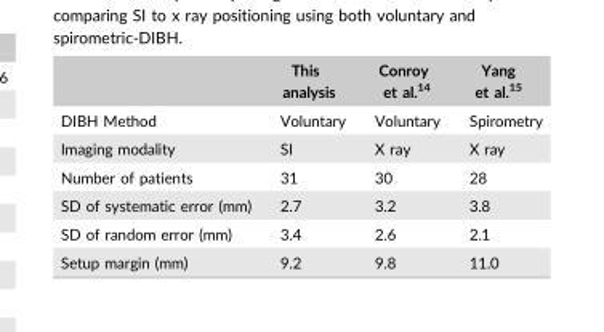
<table><thead><tr><td></td><td>This analysis</td><td>Conroy et al.<sup>14</sup></td><td>Yang et al.<sup>15</sup></td></tr></thead><tbody><tr><td>DIBH Method</td><td>Voluntary</td><td>Voluntary</td><td>Spirometry</td></tr><tr><td>Imaging modality</td><td>SI</td><td>X ray</td><td>X ray</td></tr><tr><td>Number of patients</td><td>31</td><td>30</td><td>28</td></tr><tr><td>SD of systematic error (mm)</td><td>2.7</td><td>3.2</td><td>3.8</td></tr><tr><td>SD of random error (mm)</td><td>3.4</td><td>2.6</td><td>2.1</td></tr><tr><td>Setup margin (mm)</td><td>9.2</td><td>9.8</td><td>11.0</td></tr></tbody></table>